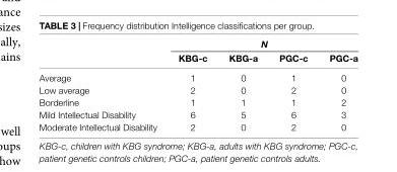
<table><thead><tr><td rowspan="2"></td><td colspan="4">N</td></tr><tr><td>KBG-c</td><td>KBG-a</td><td>PGC-c</td><td>PGC-a</td></tr></thead><tbody><tr><td>Average</td><td>1</td><td>0</td><td>1</td><td>0</td></tr><tr><td>Low average</td><td>2</td><td>0</td><td>2</td><td>0</td></tr><tr><td>Borderline</td><td>1</td><td>1</td><td>1</td><td>2</td></tr><tr><td>Mild Intellectual Disability</td><td>6</td><td>5</td><td>6</td><td>3</td></tr><tr><td>Moderate Intellectual Disability</td><td>2</td><td>0</td><td>2</td><td>0</td></tr></tbody></table>